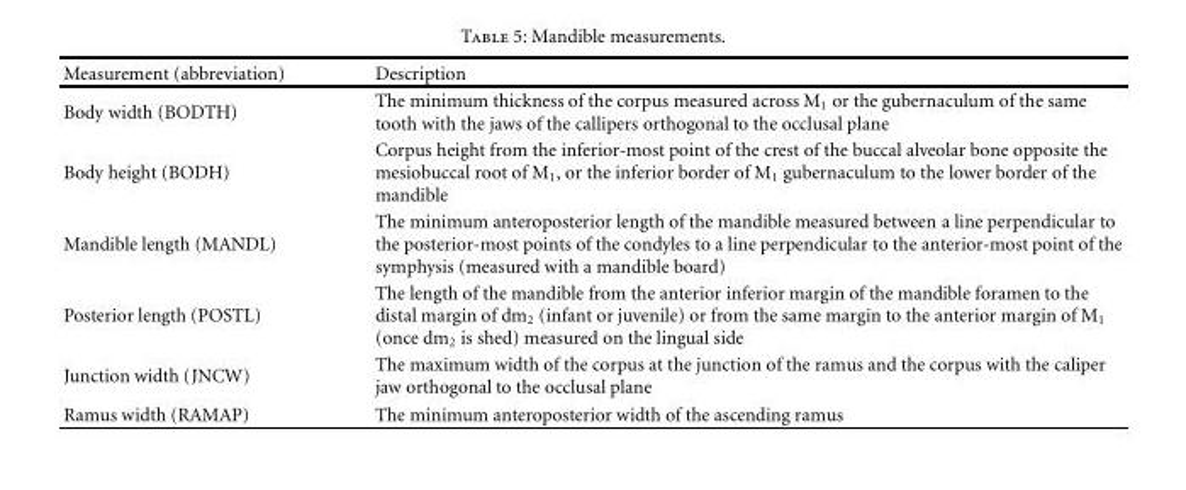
<table><thead><tr><td>Measurement (abbreviation)</td><td>Description</td></tr></thead><tbody><tr><td>Body width (BODTH)</td><td>The minimum thickness of the corpus measured across M<sub>1</sub> or the gubernaculum of the same tooth with the jaws of the callipers orthogonal to the occlusal plane</td></tr><tr><td>Body height (BODH)</td><td>Corpus height from the inferior-most point of the crest of the buccal alveolar bone opposite the mesiobuccal root of M<sub>1</sub>, or the inferior border of M<sub>1</sub> gubernaculum to the lower border of the mandible</td></tr><tr><td>Mandible length (MANDL)</td><td>The minimum anteroposterior length of the mandible measured between a line perpendicular to the posterior-most points of the condyles to a line perpendicular to the anterior-most point of the symphysis (measured with a mandible board)</td></tr><tr><td>Posterior length (POSTL)</td><td>The length of the mandible from the anterior inferior margin of the mandible foramen to the distal margin of dm<sub>2</sub> (infant or juvenile) or from the same margin to the anterior margin of M<sub>1</sub> (once dm<sub>2</sub> is shed) measured on the lingual side</td></tr><tr><td>Junction width (JNCW)</td><td>The maximum width of the corpus at the junction of the ramus and the corpus with the caliper jaw orthogonal to the occlusal plane</td></tr><tr><td>Ramus width (RAMAP)</td><td>The minimum anteroposterior width of the ascending ramus</td></tr></tbody></table>